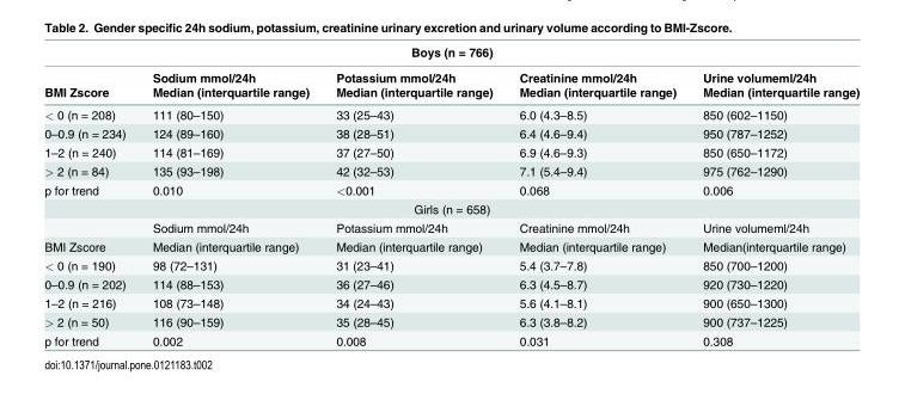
<table><thead><tr><td colspan="5">Boys (n = 766)</td></tr><tr><td rowspan="2">BMI Zscore</td><td rowspan="2">Sodium mmol/24h Median (interquartile range)</td><td rowspan="2">Potassium mmol/24h Median (interquartile range)</td><td rowspan="2">Creatinine mmol/24h Median (interquartile range)</td><td rowspan="2">Urine volumeml/24h Median (interquartile range)</td></tr><tr></tr></thead><tbody><tr><td>&lt; 0 (n = 208)</td><td>111 (80–150)</td><td>33 (25–43)</td><td>6.0 (4.3–8.5)</td><td>850 (602–1150)</td></tr><tr><td>0–0.9 (n = 234)</td><td>124 (89–160)</td><td>38 (28–51)</td><td>6.4 (4.6–9.4)</td><td>950 (787–1252)</td></tr><tr><td>1–2 (n = 240)</td><td>114 (81–169)</td><td>37 (27–50)</td><td>6.9 (4.6–9.3)</td><td>850 (650–1172)</td></tr><tr><td>&gt; 2 (n = 84)</td><td>135 (93–198)</td><td>42 (32–53)</td><td>7.1 (5.4–9.4)</td><td>975 (762–1290)</td></tr><tr><td>p for trend</td><td>0.010</td><td>&lt;0.001</td><td>0.068</td><td>0.006</td></tr><tr><td colspan="5">Girls (n = 658)</td></tr><tr><td></td><td>Sodium mmol/24h</td><td>Potassium mmol/24h</td><td>Creatinine mmol/24h</td><td>Urine volumeml/24h</td></tr><tr><td>BMI Zscore</td><td>Median (interquartile range)</td><td>Median (interquartile range)</td><td>Median (interquartile range)</td><td>Median(interquartile range)</td></tr><tr><td>&lt; 0 (n = 190)</td><td>98 (72–131)</td><td>31 (23–41)</td><td>5.4 (3.7–7.8)</td><td>850 (700–1200)</td></tr><tr><td>0–0.9 (n = 202)</td><td>114 (88–153)</td><td>36 (27–46)</td><td>6.3 (4.5–8.7)</td><td>920 (730–1220)</td></tr><tr><td>1–2 (n = 216)</td><td>108 (73–148)</td><td>34 (24–43)</td><td>5.6 (4.1–8.1)</td><td>900 (650–1300)</td></tr><tr><td>&gt; 2 (n = 50)</td><td>116 (90–159)</td><td>35 (28–45)</td><td>6.3 (3.8–8.2)</td><td>900 (737–1225)</td></tr><tr><td>p for trend</td><td>0.002</td><td>0.008</td><td>0.031</td><td>0.308</td></tr></tbody></table>